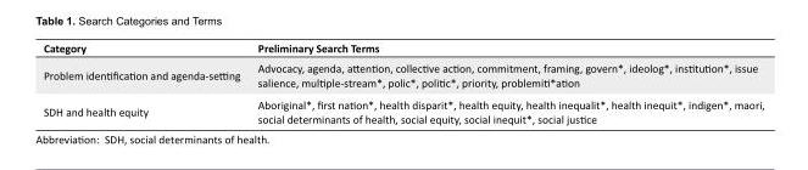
<table><tbody><tr><td>Category</td><td>Preliminary Search Terms</td></tr><tr><td>Problem identification and agenda-setting</td><td>Advocacy, agenda, attention, collective action, commitment, framing, govern*, ideolog*, institution*, issue salience, multiple-stream*, polic*, politic*, priority, problemiti*ation</td></tr><tr><td>SDH and health equity</td><td>Aboriginal*, first nation*, health disparit*, health equity, health inequalit*, health inequit*, indigen*, maori, social determinants of health, social equity, social inequit*, social justice</td></tr></tbody></table>